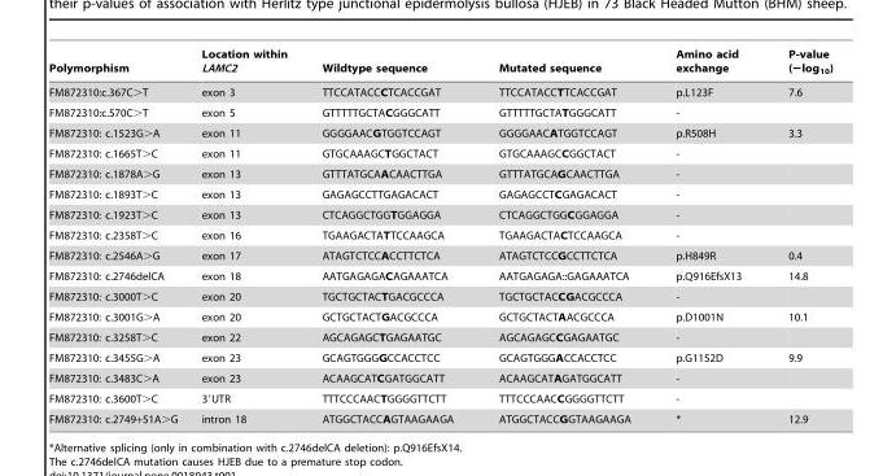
<table><thead><tr><td>Polymorphism</td><td>Location within LAMC2</td><td>Wildtype sequence</td><td>Mutated sequence</td><td>Amino acid exchange</td><td>P-value (−log<sub>10</sub>)</td></tr></thead><tbody><tr><td>FM872310:c.367C&gt;T</td><td>exon 3</td><td>TTCCATACCCTCACCGAT</td><td>TTCCATACCTTCACCGAT</td><td>p.L123F</td><td>7.6</td></tr><tr><td>FM872310:c.570C&gt;T</td><td>exon 5</td><td>GTTTTTGCTACGGGCATT</td><td>GTTTTTGCTATGGGCATT</td><td>-</td><td></td></tr><tr><td>FM872310: c.1523G&gt;A</td><td>exon 11</td><td>GGGGAACGTGGTCCAGT</td><td>GGGGAACATGGTCCAGT</td><td>p.R508H</td><td>3.3</td></tr><tr><td>FM872310: c.1665T&gt;C</td><td>exon 11</td><td>GTGCAAAGCTGGCTACT</td><td>GTGCAAAGCCGGCTACT</td><td>-</td><td></td></tr><tr><td>FM872310: c.1878A&gt;G</td><td>exon 13</td><td>GTTTATGCAACAACTTGA</td><td>GTTTATGCAGCAACTTGA</td><td>-</td><td></td></tr><tr><td>FM872310: c.1893T&gt;C</td><td>exon 13</td><td>GAGAGCCTTGAGACACT</td><td>GAGAGCCTCGAGACACT</td><td>-</td><td></td></tr><tr><td>FM872310: c.1923T&gt;C</td><td>exon 13</td><td>CTCAGGCTGGTGGAGGA</td><td>CTCAGGCTGGCGGAGGA</td><td>-</td><td></td></tr><tr><td>FM872310: c.2358T&gt;C</td><td>exon 16</td><td>TGAAGACTATTCCAAGCA</td><td>TGAAGACTACTCCAAGCA</td><td>-</td><td></td></tr><tr><td>FM872310: c.2546A&gt;G</td><td>exon 17</td><td>ATAGTCTCCACCTTCTCA</td><td>ATAGTCTCCGCCTTCTCA</td><td>p.H849R</td><td>0.4</td></tr><tr><td>FM872310: c.2746delCA</td><td>exon 18</td><td>AATGAGAGACAGAAATCA</td><td>AATGAGAGA::GAGAAATCA</td><td>p.Q916EfsX13</td><td>14.8</td></tr><tr><td>FM872310: c.3000T&gt;C</td><td>exon 20</td><td>TGCTGCTACTGACGCCCA</td><td>TGCTGCTACCGACGCCCA</td><td>-</td><td></td></tr><tr><td>FM872310: c.3001G&gt;A</td><td>exon 20</td><td>GCTGCTACTGACGCCCA</td><td>GCTGCTACTAACGCCCA</td><td>p.D1001N</td><td>10.1</td></tr><tr><td>FM872310: c.3258T&gt;C</td><td>exon 22</td><td>AGCAGAGCTGAGAATGC</td><td>AGCAGAGCCGAGAATGC</td><td>-</td><td></td></tr><tr><td>FM872310: c.3455G&gt;A</td><td>exon 23</td><td>GCAGTGGGGCCACCTCC</td><td>GCAGTGGGACCACCTCC</td><td>p.G1152D</td><td>9.9</td></tr><tr><td>FM872310: c.3483C&gt;A</td><td>exon 23</td><td>ACAAGCATCGATGGCATT</td><td>ACAAGCATAGATGGCATT</td><td>-</td><td></td></tr><tr><td>FM872310: c.3600T&gt;C</td><td>3′UTR</td><td>TTTCCCAACTGGGGTTCTT</td><td>TTTCCCAACCGGGGTTCTT</td><td>-</td><td></td></tr><tr><td>FM872310: c.2749+51A&gt;G</td><td>intron 18</td><td>ATGGCTACCAGTAAGAAGA</td><td>ATGGCTACCGGTAAGAAGA</td><td>*</td><td>12.9</td></tr></tbody></table>